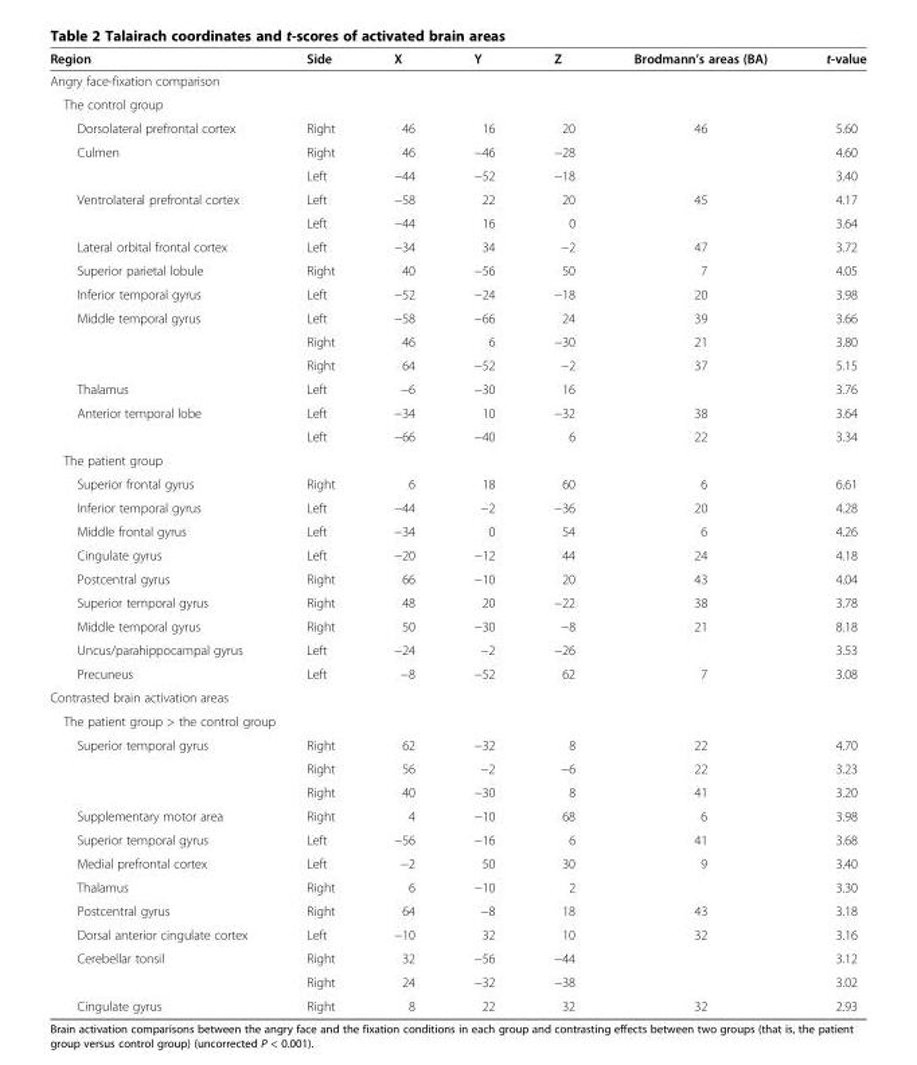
<table><thead><tr><td>Region</td><td>Side</td><td>X</td><td>Y</td><td>Z</td><td>Brodmann’s areas (BA)</td><td>t-value</td></tr></thead><tbody><tr><td colspan="7">Angry face-fixation comparison</td></tr><tr><td colspan="7">The control group</td></tr><tr><td>Dorsolateral prefrontal cortex</td><td>Right</td><td>46</td><td>16</td><td>20</td><td>46</td><td>5.60</td></tr><tr><td rowspan="2">Culmen</td><td>Right</td><td>46</td><td>−46</td><td>−28</td><td></td><td>4.60</td></tr><tr><td>Left</td><td>−44</td><td>−52</td><td>−18</td><td></td><td>3.40</td></tr><tr><td rowspan="2">Ventrolateral prefrontal cortex</td><td>Left</td><td>−58</td><td>22</td><td>20</td><td>45</td><td>4.17</td></tr><tr><td>Left</td><td>−44</td><td>16</td><td>0</td><td></td><td>3.64</td></tr><tr><td>Lateral orbital frontal cortex</td><td>Left</td><td>−34</td><td>34</td><td>−2</td><td>47</td><td>3.72</td></tr><tr><td>Superior parietal lobule</td><td>Right</td><td>40</td><td>−56</td><td>50</td><td>7</td><td>4.05</td></tr><tr><td>Inferior temporal gyrus</td><td>Left</td><td>−52</td><td>−24</td><td>−18</td><td>20</td><td>3.98</td></tr><tr><td rowspan="3">Middle temporal gyrus</td><td>Left</td><td>−58</td><td>−66</td><td>24</td><td>39</td><td>3.66</td></tr><tr><td>Right</td><td>46</td><td>6</td><td>−30</td><td>21</td><td>3.80</td></tr><tr><td>Right</td><td>64</td><td>−52</td><td>−2</td><td>37</td><td>5.15</td></tr><tr><td>Thalamus</td><td>Left</td><td>−6</td><td>−30</td><td>16</td><td></td><td>3.76</td></tr><tr><td rowspan="2">Anterior temporal lobe</td><td>Left</td><td>−34</td><td>10</td><td>−32</td><td>38</td><td>3.64</td></tr><tr><td>Left</td><td>−66</td><td>−40</td><td>6</td><td>22</td><td>3.34</td></tr><tr><td colspan="7">The patient group</td></tr><tr><td>Superior frontal gyrus</td><td>Right</td><td>6</td><td>18</td><td>60</td><td>6</td><td>6.61</td></tr><tr><td>Inferior temporal gyrus</td><td>Left</td><td>−44</td><td>−2</td><td>−36</td><td>20</td><td>4.28</td></tr><tr><td>Middle frontal gyrus</td><td>Left</td><td>−34</td><td>0</td><td>54</td><td>6</td><td>4.26</td></tr><tr><td>Cingulate gyrus</td><td>Left</td><td>−20</td><td>−12</td><td>44</td><td>24</td><td>4.18</td></tr><tr><td>Postcentral gyrus</td><td>Right</td><td>66</td><td>−10</td><td>20</td><td>43</td><td>4.04</td></tr><tr><td>Superior temporal gyrus</td><td>Right</td><td>48</td><td>20</td><td>−22</td><td>38</td><td>3.78</td></tr><tr><td>Middle temporal gyrus</td><td>Right</td><td>50</td><td>−30</td><td>−8</td><td>21</td><td>8.18</td></tr><tr><td>Uncus/parahippocampal gyrus</td><td>Left</td><td>−24</td><td>−2</td><td>−26</td><td></td><td>3.53</td></tr><tr><td>Precuneus</td><td>Left</td><td>−8</td><td>−52</td><td>62</td><td>7</td><td>3.08</td></tr><tr><td colspan="7">Contrasted brain activation areas</td></tr><tr><td colspan="7">The patient group &gt; the control group</td></tr><tr><td rowspan="3">Superior temporal gyrus</td><td>Right</td><td>62</td><td>−32</td><td>8</td><td>22</td><td>4.70</td></tr><tr><td>Right</td><td>56</td><td>−2</td><td>−6</td><td>22</td><td>3.23</td></tr><tr><td>Right</td><td>40</td><td>−30</td><td>8</td><td>41</td><td>3.20</td></tr><tr><td>Supplementary motor area</td><td>Right</td><td>4</td><td>−10</td><td>68</td><td>6</td><td>3.98</td></tr><tr><td>Superior temporal gyrus</td><td>Left</td><td>−56</td><td>−16</td><td>6</td><td>41</td><td>3.68</td></tr><tr><td>Medial prefrontal cortex</td><td>Left</td><td>−2</td><td>50</td><td>30</td><td>9</td><td>3.40</td></tr><tr><td>Thalamus</td><td>Right</td><td>6</td><td>−10</td><td>2</td><td></td><td>3.30</td></tr><tr><td>Postcentral gyrus</td><td>Right</td><td>64</td><td>−8</td><td>18</td><td>43</td><td>3.18</td></tr><tr><td>Dorsal anterior cingulate cortex</td><td>Left</td><td>−10</td><td>32</td><td>10</td><td>32</td><td>3.16</td></tr><tr><td rowspan="2">Cerebellar tonsil</td><td>Right</td><td>32</td><td>−56</td><td>−44</td><td></td><td>3.12</td></tr><tr><td>Right</td><td>24</td><td>−32</td><td>−38</td><td></td><td>3.02</td></tr><tr><td>Cingulate gyrus</td><td>Right</td><td>8</td><td>22</td><td>32</td><td>32</td><td>2.93</td></tr></tbody></table>